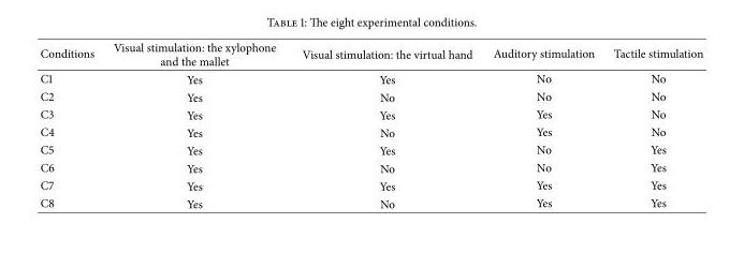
<table><thead><tr><td>Conditions</td><td>Visual stimulation: the xylophone and the mallet</td><td>Visual stimulation: the virtual hand</td><td>Auditory stimulation</td><td>Tactile stimulation</td></tr></thead><tbody><tr><td>C1</td><td>Yes</td><td>Yes</td><td>No</td><td>No</td></tr><tr><td>C2</td><td>Yes</td><td>No</td><td>No</td><td>No</td></tr><tr><td>C3</td><td>Yes</td><td>Yes</td><td>Yes</td><td>No</td></tr><tr><td>C4</td><td>Yes</td><td>No</td><td>Yes</td><td>No</td></tr><tr><td>C5</td><td>Yes</td><td>Yes</td><td>No</td><td>Yes</td></tr><tr><td>C6</td><td>Yes</td><td>No</td><td>No</td><td>Yes</td></tr><tr><td>C7</td><td>Yes</td><td>Yes</td><td>Yes</td><td>Yes</td></tr><tr><td>C8</td><td>Yes</td><td>No</td><td>Yes</td><td>Yes</td></tr></tbody></table>